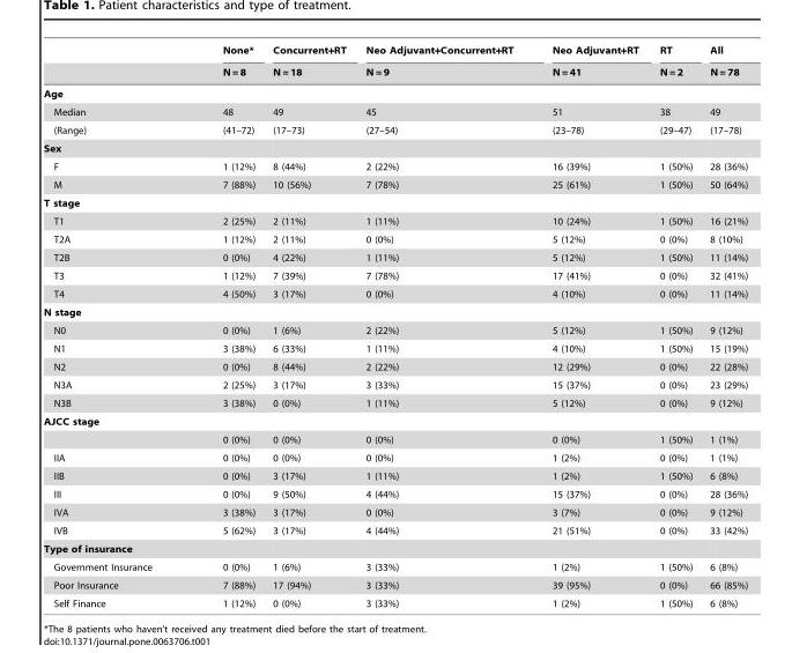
<table><thead><tr><td rowspan="2"></td><td rowspan="2">None* N = 8</td><td rowspan="2">Concurrent+RT N = 18</td><td rowspan="2">Neo Adjuvant+Concurrent+RT N = 9</td><td rowspan="2">Neo Adjuvant+RT N = 41</td><td rowspan="2">RT N = 2</td><td rowspan="2">All N = 78</td></tr><tr></tr></thead><tbody><tr><td colspan="7">Age</td></tr><tr><td>Median</td><td>48</td><td>49</td><td>45</td><td>51</td><td>38</td><td>49</td></tr><tr><td>(Range)</td><td>(41–72)</td><td>(17–73)</td><td>(27–54)</td><td>(23–78)</td><td>(29–47)</td><td>(17–78)</td></tr><tr><td colspan="7">Sex</td></tr><tr><td>F</td><td>1 (12%)</td><td>8 (44%)</td><td>2 (22%)</td><td>16 (39%)</td><td>1 (50%)</td><td>28 (36%)</td></tr><tr><td>M</td><td>7 (88%)</td><td>10 (56%)</td><td>7 (78%)</td><td>25 (61%)</td><td>1 (50%)</td><td>50 (64%)</td></tr><tr><td colspan="7">T stage</td></tr><tr><td>T1</td><td>2 (25%)</td><td>2 (11%)</td><td>1 (11%)</td><td>10 (24%)</td><td>1 (50%)</td><td>16 (21%)</td></tr><tr><td>T2A</td><td>1 (12%)</td><td>2 (11%)</td><td>0 (0%)</td><td>5 (12%)</td><td>0 (0%)</td><td>8 (10%)</td></tr><tr><td>T2B</td><td>0 (0%)</td><td>4 (22%)</td><td>1 (11%)</td><td>5 (12%)</td><td>1 (50%)</td><td>11 (14%)</td></tr><tr><td>T3</td><td>1 (12%)</td><td>7 (39%)</td><td>7 (78%)</td><td>17 (41%)</td><td>0 (0%)</td><td>32 (41%)</td></tr><tr><td>T4</td><td>4 (50%)</td><td>3 (17%)</td><td>0 (0%)</td><td>4 (10%)</td><td>0 (0%)</td><td>11 (14%)</td></tr><tr><td colspan="7">N stage</td></tr><tr><td>N0</td><td>0 (0%)</td><td>1 (6%)</td><td>2 (22%)</td><td>5 (12%)</td><td>1 (50%)</td><td>9 (12%)</td></tr><tr><td>N1</td><td>3 (38%)</td><td>6 (33%)</td><td>1 (11%)</td><td>4 (10%)</td><td>1 (50%)</td><td>15 (19%)</td></tr><tr><td>N2</td><td>0 (0%)</td><td>8 (44%)</td><td>2 (22%)</td><td>12 (29%)</td><td>0 (0%)</td><td>22 (28%)</td></tr><tr><td>N3A</td><td>2 (25%)</td><td>3 (17%)</td><td>3 (33%)</td><td>15 (37%)</td><td>0 (0%)</td><td>23 (29%)</td></tr><tr><td>N3B</td><td>3 (38%)</td><td>0 (0%)</td><td>1 (11%)</td><td>5 (12%)</td><td>0 (0%)</td><td>9 (12%)</td></tr><tr><td colspan="7">AJCC stage</td></tr><tr><td></td><td>0 (0%)</td><td>0 (0%)</td><td>0 (0%)</td><td>0 (0%)</td><td>1 (50%)</td><td>1 (1%)</td></tr><tr><td>IIA</td><td>0 (0%)</td><td>0 (0%)</td><td>0 (0%)</td><td>1 (2%)</td><td>0 (0%)</td><td>1 (1%)</td></tr><tr><td>IIB</td><td>0 (0%)</td><td>3 (17%)</td><td>1 (11%)</td><td>1 (2%)</td><td>1 (50%)</td><td>6 (8%)</td></tr><tr><td>III</td><td>0 (0%)</td><td>9 (50%)</td><td>4 (44%)</td><td>15 (37%)</td><td>0 (0%)</td><td>28 (36%)</td></tr><tr><td>IVA</td><td>3 (38%)</td><td>3 (17%)</td><td>0 (0%)</td><td>3 (7%)</td><td>0 (0%)</td><td>9 (12%)</td></tr><tr><td>IVB</td><td>5 (62%)</td><td>3 (17%)</td><td>4 (44%)</td><td>21 (51%)</td><td>0 (0%)</td><td>33 (42%)</td></tr><tr><td colspan="7">Type of insurance</td></tr><tr><td>Government Insurance</td><td>0 (0%)</td><td>1 (6%)</td><td>3 (33%)</td><td>1 (2%)</td><td>1 (50%)</td><td>6 (8%)</td></tr><tr><td>Poor Insurance</td><td>7 (88%)</td><td>17 (94%)</td><td>3 (33%)</td><td>39 (95%)</td><td>0 (0%)</td><td>66 (85%)</td></tr><tr><td>Self Finance</td><td>1 (12%)</td><td>0 (0%)</td><td>3 (33%)</td><td>1 (2%)</td><td>1 (50%)</td><td>6 (8%)</td></tr></tbody></table>